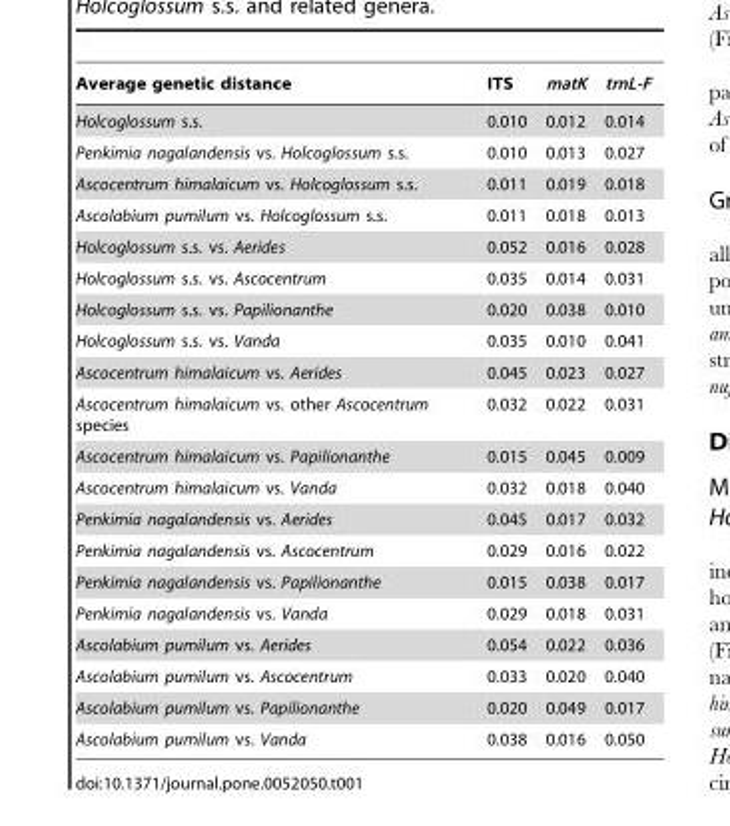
<table><thead><tr><td>Average genetic distance</td><td>ITS</td><td>matK</td><td>trnL-F</td></tr></thead><tbody><tr><td>Holcoglossum s.s.</td><td>0.010</td><td>0.012</td><td>0.014</td></tr><tr><td>Penkimia nagalandensis vs. Holcoglossum s.s.</td><td>0.010</td><td>0.013</td><td>0.027</td></tr><tr><td>Ascocentrum himalaicum vs. Holcoglossum s.s.</td><td>0.011</td><td>0.019</td><td>0.018</td></tr><tr><td>Ascolabium pumilum vs. Holcoglossum s.s.</td><td>0.011</td><td>0.018</td><td>0.013</td></tr><tr><td>Holcoglossum s.s. vs. Aerides</td><td>0.052</td><td>0.016</td><td>0.028</td></tr><tr><td>Holcoglossum s.s. vs. Ascocentrum</td><td>0.035</td><td>0.014</td><td>0.031</td></tr><tr><td>Holcoglossum s.s. vs. Papilionanthe</td><td>0.020</td><td>0.038</td><td>0.010</td></tr><tr><td>Holcoglossum s.s. vs. Vanda</td><td>0.035</td><td>0.010</td><td>0.041</td></tr><tr><td>Ascocentrum himalaicum vs. Aerides</td><td>0.045</td><td>0.023</td><td>0.027</td></tr><tr><td>Ascocentrum himalaicum vs. other Ascocentrum species</td><td>0.032</td><td>0.022</td><td>0.031</td></tr><tr><td>Ascocentrum himalaicum vs. Papilionanthe</td><td>0.015</td><td>0.045</td><td>0.009</td></tr><tr><td>Ascocentrum himalaicum vs. Vanda</td><td>0.032</td><td>0.018</td><td>0.040</td></tr><tr><td>Penkimia nagalandensis vs. Aerides</td><td>0.045</td><td>0.017</td><td>0.032</td></tr><tr><td>Penkimia nagalandensis vs. Ascocentrum</td><td>0.029</td><td>0.016</td><td>0.022</td></tr><tr><td>Penkimia nagalandensis vs. Papilionanthe</td><td>0.015</td><td>0.038</td><td>0.017</td></tr><tr><td>Penkimia nagalandensis vs. Vanda</td><td>0.029</td><td>0.018</td><td>0.031</td></tr><tr><td>Ascolabium pumilum vs. Aerides</td><td>0.054</td><td>0.022</td><td>0.036</td></tr><tr><td>Ascolabium pumilum vs. Ascocentrum</td><td>0.033</td><td>0.020</td><td>0.040</td></tr><tr><td>Ascolabium pumilum vs. Papilionanthe</td><td>0.020</td><td>0.049</td><td>0.017</td></tr><tr><td>Ascolabium pumilum vs. Vanda</td><td>0.038</td><td>0.016</td><td>0.050</td></tr></tbody></table>